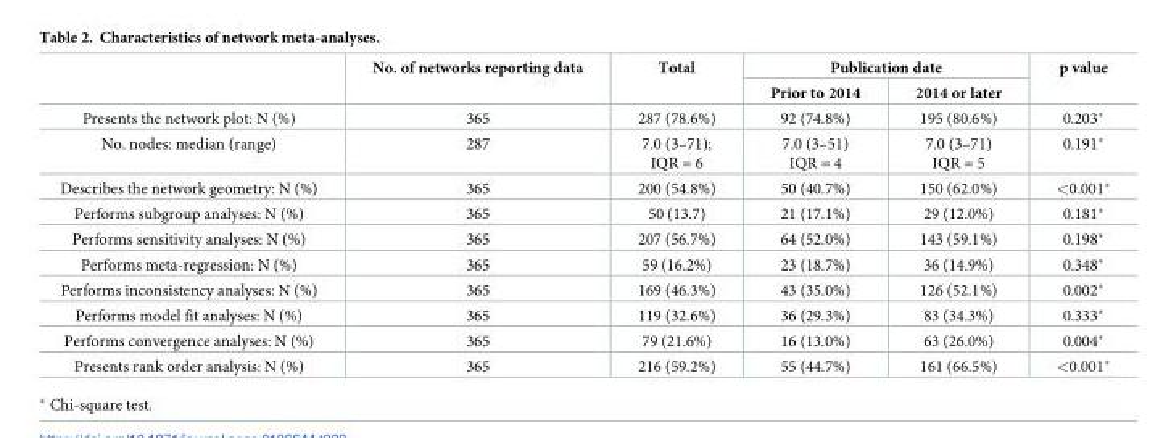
<table><thead><tr><td rowspan="2"></td><td rowspan="2">No. of networks reporting data</td><td rowspan="2">Total</td><td colspan="2">Publication date</td><td rowspan="2">p value</td></tr><tr><td>Prior to 2014</td><td>2014 or later</td></tr></thead><tbody><tr><td>Presents the network plot: N (%)</td><td>365</td><td>287 (78.6%)</td><td>92 (74.8%)</td><td>195 (80.6%)</td><td>0.203*</td></tr><tr><td>No. nodes: median (range)</td><td>287</td><td>7.0 (3–71); IQR = 6</td><td>7.0 (3–51) IQR = 4</td><td>7.0 (3–71) IQR = 5</td><td>0.191*</td></tr><tr><td>Describes the network geometry: N (%)</td><td>365</td><td>200 (54.8%)</td><td>50 (40.7%)</td><td>150 (62.0%)</td><td>&lt;0.001*</td></tr><tr><td>Performs subgroup analyses: N (%)</td><td>365</td><td>50 (13.7)</td><td>21 (17.1%)</td><td>29 (12.0%)</td><td>0.181*</td></tr><tr><td>Performs sensitivity analyses: N (%)</td><td>365</td><td>207 (56.7%)</td><td>64 (52.0%)</td><td>143 (59.1%)</td><td>0.198*</td></tr><tr><td>Performs meta-regression: N (%)</td><td>365</td><td>59 (16.2%)</td><td>23 (18.7%)</td><td>36 (14.9%)</td><td>0.348*</td></tr><tr><td>Performs inconsistency analyses: N (%)</td><td>365</td><td>169 (46.3%)</td><td>43 (35.0%)</td><td>126 (52.1%)</td><td>0.002*</td></tr><tr><td>Performs model fit analyses: N (%)</td><td>365</td><td>119 (32.6%)</td><td>36 (29.3%)</td><td>83 (34.3%)</td><td>0.333*</td></tr><tr><td>Performs convergence analyses: N (%)</td><td>365</td><td>79 (21.6%)</td><td>16 (13.0%)</td><td>63 (26.0%)</td><td>0.004*</td></tr><tr><td>Presents rank order analysis: N (%)</td><td>365</td><td>216 (59.2%)</td><td>55 (44.7%)</td><td>161 (66.5%)</td><td>&lt;0.001*</td></tr></tbody></table>